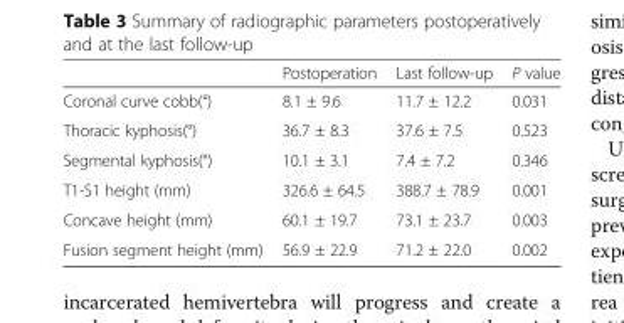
<table><thead><tr><td></td><td>Postoperation</td><td>Last follow-up</td><td>P value</td></tr></thead><tbody><tr><td>Coronal curve cobb(°)</td><td>8.1 ± 9.6</td><td>11.7 ± 12.2</td><td>0.031</td></tr><tr><td>Thoracic kyphosis(°)</td><td>36.7 ± 8.3</td><td>37.6 ± 7.5</td><td>0.523</td></tr><tr><td>Segmental kyphosis(°)</td><td>10.1 ± 3.1</td><td>7.4 ± 7.2</td><td>0.346</td></tr><tr><td>T1-S1 height (mm)</td><td>326.6 ± 64.5</td><td>388.7 ± 78.9</td><td>0.001</td></tr><tr><td>Concave height (mm)</td><td>60.1 ± 19.7</td><td>73.1 ± 23.7</td><td>0.003</td></tr><tr><td>Fusion segment height (mm)</td><td>56.9 ± 22.9</td><td>71.2 ± 22.0</td><td>0.002</td></tr></tbody></table>